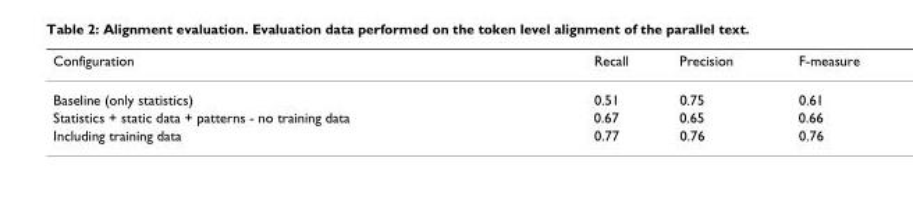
<table><thead><tr><td>Configuration</td><td>Recall</td><td>Precision</td><td>F-measure</td></tr></thead><tbody><tr><td>Baseline (only statistics)</td><td>0.51</td><td>0.75</td><td>0.61</td></tr><tr><td>Statistics + static data + patterns - no training data</td><td>0.67</td><td>0.65</td><td>0.66</td></tr><tr><td>Including training data</td><td>0.77</td><td>0.76</td><td>0.76</td></tr></tbody></table>